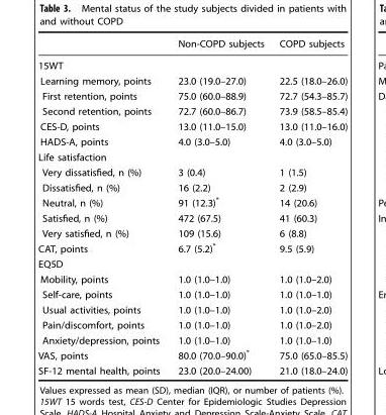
<table><thead><tr><td></td><td>Non-COPD subjects</td><td>COPD subjects</td></tr></thead><tbody><tr><td colspan="3">15WT</td></tr><tr><td>Learning memory, points</td><td>23.0 (19.0–27.0)</td><td>22.5 (18.0–26.0)</td></tr><tr><td>First retention, points</td><td>75.0 (60.0–88.9)</td><td>72.7 (54.3–85.7)</td></tr><tr><td>Second retention, points</td><td>72.7 (60.0–86.7)</td><td>73.9 (58.5–85.4)</td></tr><tr><td>CES-D, points</td><td>13.0 (11.0–15.0)</td><td>13.0 (11.0–16.0)</td></tr><tr><td>HADS-A, points</td><td>4.0 (3.0–5.0)</td><td>4.0 (3.0–5.0)</td></tr><tr><td colspan="3">Life satisfaction</td></tr><tr><td>Very dissatisfied, n (%)</td><td>3 (0.4)</td><td>1 (1.5)</td></tr><tr><td>Dissatisfied, n (%)</td><td>16 (2.2)</td><td>2 (2.9)</td></tr><tr><td>Neutral, n (%)</td><td>91 (12.3)*</td><td>14 (20.6)</td></tr><tr><td>Satisfied, n (%)</td><td>472 (67.5)</td><td>41 (60.3)</td></tr><tr><td>Very satisfied, n (%)</td><td>109 (15.6)</td><td>6 (8.8)</td></tr><tr><td>CAT, points</td><td>6.7 (5.2)*</td><td>9.5 (5.9)</td></tr><tr><td colspan="3">EQ5D</td></tr><tr><td>Mobility, points</td><td>1.0 (1.0–1.0)</td><td>1.0 (1.0–2.0)</td></tr><tr><td>Self-care, points</td><td>1.0 (1.0–1.0)</td><td>1.0 (1.0–1.0)</td></tr><tr><td>Usual activities, points</td><td>1.0 (1.0–1.0)</td><td>1.0 (1.0–2.0)</td></tr><tr><td>Pain/discomfort, points</td><td>1.0 (1.0–1.0)</td><td>1.0 (1.0–2.0)</td></tr><tr><td>Anxiety/depression, points</td><td>1.0 (1.0–1.0)</td><td>1.0 (1.0–1.0)</td></tr><tr><td>VAS, points</td><td>80.0 (70.0–90.0)*</td><td>75.0 (65.0–85.5)</td></tr><tr><td>SF-12 mental health, points</td><td>23.0 (20.0–24.00)</td><td>21.0 (18.0–24.0)</td></tr></tbody></table>